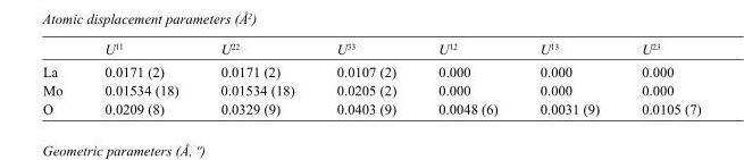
<table><thead><tr><td></td><td>U<sup>11</sup></td><td>U<sup>22</sup></td><td>U<sup>33</sup></td><td>U<sup>12</sup></td><td>U<sup>13</sup></td><td>U<sup>23</sup></td></tr></thead><tbody><tr><td>La</td><td>0.0171 (2)</td><td>0.0171 (2)</td><td>0.0107 (2)</td><td>0.000</td><td>0.000</td><td>0.000</td></tr><tr><td>Mo</td><td>0.01534 (18)</td><td>0.01534 (18)</td><td>0.0205 (2)</td><td>0.000</td><td>0.000</td><td>0.000</td></tr><tr><td>O</td><td>0.0209 (8)</td><td>0.0329 (9)</td><td>0.0403 (9)</td><td>0.0048 (6)</td><td>0.0031 (9)</td><td>0.0105 (7)</td></tr></tbody></table>